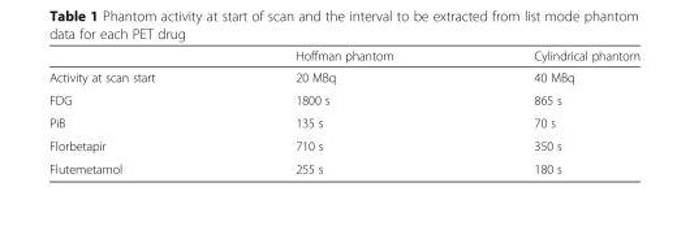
<table><thead><tr><td></td><td>Hoffman phantom</td><td>Cylindrical phantom</td></tr></thead><tbody><tr><td>Activity at scan start</td><td>20 MBq</td><td>40 MBq</td></tr><tr><td>FDG</td><td>1800 s</td><td>865 s</td></tr><tr><td>PiB</td><td>135 s</td><td>70 s</td></tr><tr><td>Florbetapir</td><td>710 s</td><td>350 s</td></tr><tr><td>Flutemetamol</td><td>255 s</td><td>180 s</td></tr></tbody></table>